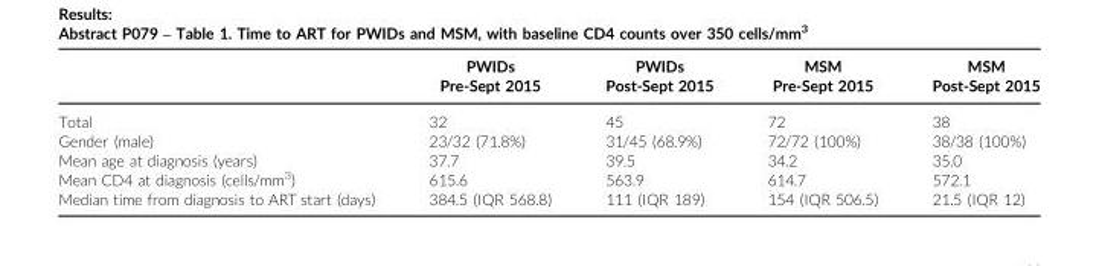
<table><thead><tr><td rowspan="2"></td><td rowspan="2">PWIDs Pre-Sept 2015</td><td rowspan="2">PWIDs Post-Sept 2015</td><td rowspan="2">MSM Pre-Sept 2015</td><td rowspan="2">MSM Post-Sept 2015</td></tr><tr></tr></thead><tbody><tr><td>Total</td><td>32</td><td>45</td><td>72</td><td>38</td></tr><tr><td>Gender (male)</td><td>23/32 (71.8%)</td><td>31/45 (68.9%)</td><td>72/72 (100%)</td><td>38/38 (100%)</td></tr><tr><td>Mean age at diagnosis (years)</td><td>37.7</td><td>39.5</td><td>34.2</td><td>35.0</td></tr><tr><td>Mean CD4 at diagnosis (cells/mm<sup>3</sup>)</td><td>615.6</td><td>563.9</td><td>614.7</td><td>572.1</td></tr><tr><td>Median time from diagnosis to ART start (days)</td><td>384.5 (IQR 568.8)</td><td>111 (IQR 189)</td><td>154 (IQR 506.5)</td><td>21.5 (IQR 12)</td></tr></tbody></table>